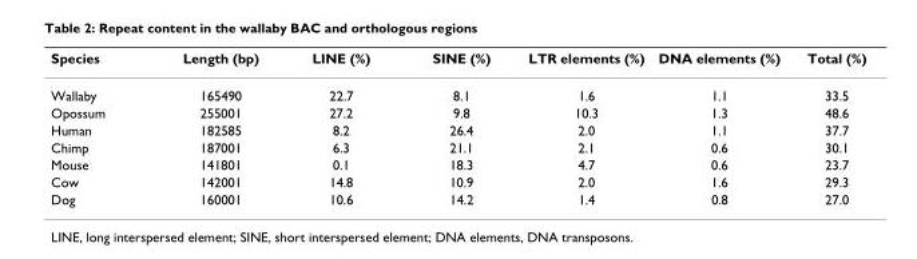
<table><thead><tr><td>Species</td><td>Length (bp)</td><td>LINE (%)</td><td>SINE (%)</td><td>LTR elements (%)</td><td>DNA elements (%)</td><td>Total (%)</td></tr></thead><tbody><tr><td>Wallaby</td><td>165490</td><td>22.7</td><td>8.1</td><td>1.6</td><td>1.1</td><td>33.5</td></tr><tr><td>Opossum</td><td>255001</td><td>27.2</td><td>9.8</td><td>10.3</td><td>1.3</td><td>48.6</td></tr><tr><td>Human</td><td>182585</td><td>8.2</td><td>26.4</td><td>2.0</td><td>1.1</td><td>37.7</td></tr><tr><td>Chimp</td><td>187001</td><td>6.3</td><td>21.1</td><td>2.1</td><td>0.6</td><td>30.1</td></tr><tr><td>Mouse</td><td>141801</td><td>0.1</td><td>18.3</td><td>4.7</td><td>0.6</td><td>23.7</td></tr><tr><td>Cow</td><td>142001</td><td>14.8</td><td>10.9</td><td>2.0</td><td>1.6</td><td>29.3</td></tr><tr><td>Dog</td><td>160001</td><td>10.6</td><td>14.2</td><td>1.4</td><td>0.8</td><td>27.0</td></tr></tbody></table>